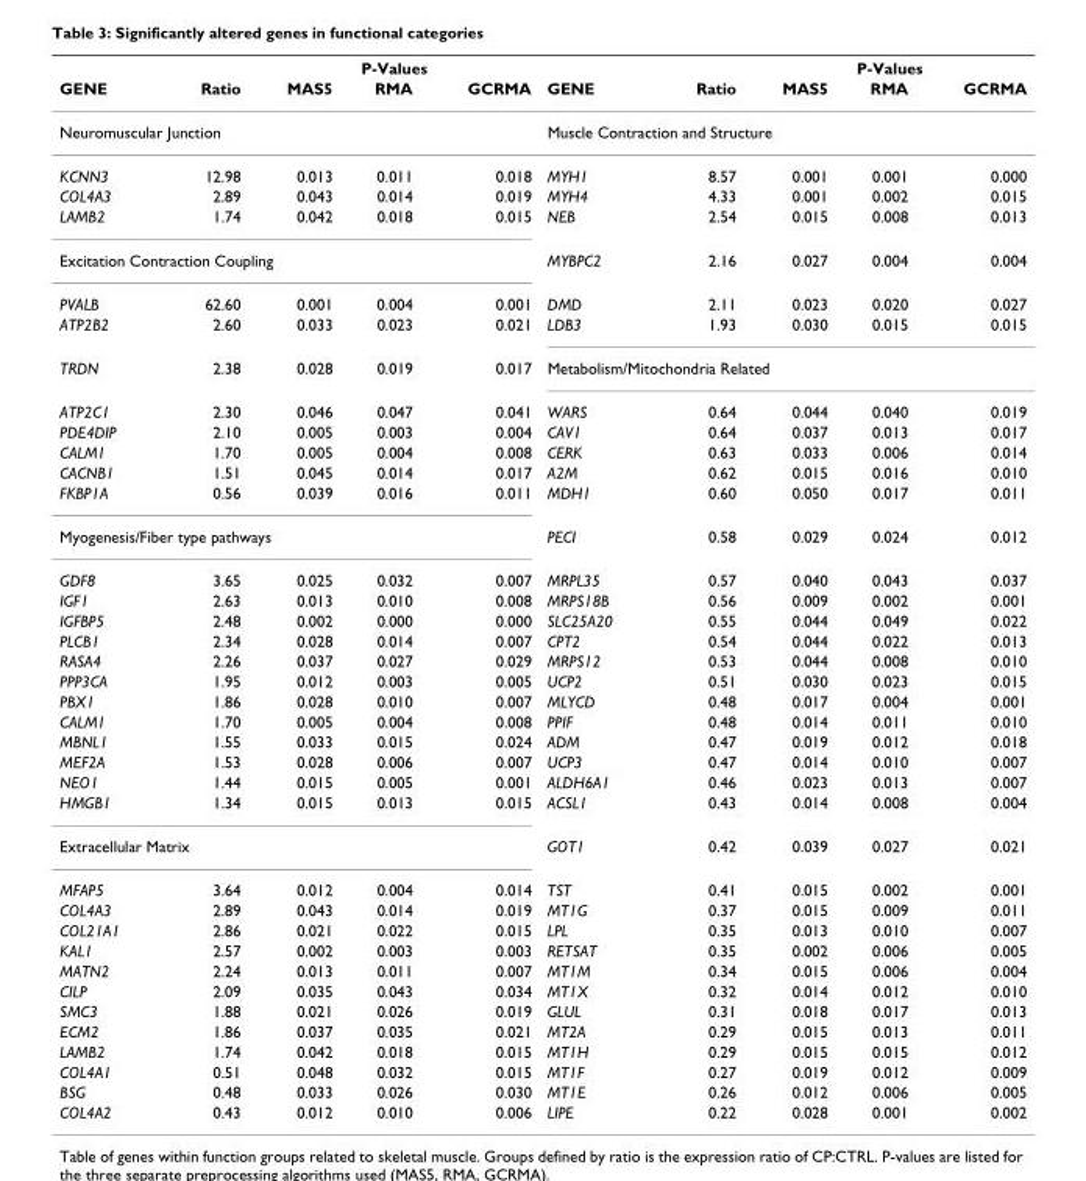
<table><thead><tr><td rowspan="2">GENE</td><td rowspan="2">Ratio</td><td colspan="3">P-Values</td><td rowspan="2">GENE</td><td rowspan="2">Ratio</td><td colspan="3">P-Values</td></tr><tr><td>MAS5</td><td>RMA</td><td>GCRMA</td><td>MAS5</td><td>RMA</td><td>GCRMA</td></tr></thead><tbody><tr><td colspan="5">Neuromuscular Junction</td><td colspan="5">Muscle Contraction and Structure</td></tr><tr><td>KCNN3</td><td>12.98</td><td>0.013</td><td>0.011</td><td>0.018</td><td>MYH1</td><td>8.57</td><td>0.001</td><td>0.001</td><td>0.000</td></tr><tr><td>COL4A3</td><td>2.89</td><td>0.043</td><td>0.014</td><td>0.019</td><td>MYH4</td><td>4.33</td><td>0.001</td><td>0.002</td><td>0.015</td></tr><tr><td>LAMB2</td><td>1.74</td><td>0.042</td><td>0.018</td><td>0.015</td><td>NEB</td><td>2.54</td><td>0.015</td><td>0.008</td><td>0.013</td></tr><tr><td colspan="5">Excitation Contraction Coupling</td><td>MYBPC2</td><td>2.16</td><td>0.027</td><td>0.004</td><td>0.004</td></tr><tr><td>PVALB</td><td>62.60</td><td>0.001</td><td>0.004</td><td>0.001</td><td>DMD</td><td>2.11</td><td>0.023</td><td>0.020</td><td>0.027</td></tr><tr><td>ATP2B2</td><td>2.60</td><td>0.033</td><td>0.023</td><td>0.021</td><td>LDB3</td><td>1.93</td><td>0.030</td><td>0.015</td><td>0.015</td></tr><tr><td>TRDN</td><td>2.38</td><td>0.028</td><td>0.019</td><td>0.017</td><td colspan="5">Metabolism/Mitochondria Related</td></tr><tr><td>ATP2C1</td><td>2.30</td><td>0.046</td><td>0.047</td><td>0.041</td><td>WARS</td><td>0.64</td><td>0.044</td><td>0.040</td><td>0.019</td></tr><tr><td>PDE4DIP</td><td>2.10</td><td>0.005</td><td>0.003</td><td>0.004</td><td>CAV1</td><td>0.64</td><td>0.037</td><td>0.013</td><td>0.017</td></tr><tr><td>CALM1</td><td>1.70</td><td>0.005</td><td>0.004</td><td>0.008</td><td>CERK</td><td>0.63</td><td>0.033</td><td>0.006</td><td>0.014</td></tr><tr><td>CACNB1</td><td>1.51</td><td>0.045</td><td>0.014</td><td>0.017</td><td>A2M</td><td>0.62</td><td>0.015</td><td>0.016</td><td>0.010</td></tr><tr><td>FKBP1A</td><td>0.56</td><td>0.039</td><td>0.016</td><td>0.011</td><td>MDH1</td><td>0.60</td><td>0.050</td><td>0.017</td><td>0.011</td></tr><tr><td colspan="5">Myogenesis/Fiber type pathways</td><td>PECI</td><td>0.58</td><td>0.029</td><td>0.024</td><td>0.012</td></tr><tr><td>GDF8</td><td>3.65</td><td>0.025</td><td>0.032</td><td>0.007</td><td>MRPL35</td><td>0.57</td><td>0.040</td><td>0.043</td><td>0.037</td></tr><tr><td>IGF1</td><td>2.63</td><td>0.013</td><td>0.010</td><td>0.008</td><td>MRPS18B</td><td>0.56</td><td>0.009</td><td>0.002</td><td>0.001</td></tr><tr><td>IGFBP5</td><td>2.48</td><td>0.002</td><td>0.000</td><td>0.000</td><td>SLC25A20</td><td>0.55</td><td>0.044</td><td>0.049</td><td>0.022</td></tr><tr><td>PLCB1</td><td>2.34</td><td>0.028</td><td>0.014</td><td>0.007</td><td>CPT2</td><td>0.54</td><td>0.044</td><td>0.022</td><td>0.013</td></tr><tr><td>RASA4</td><td>2.26</td><td>0.037</td><td>0.027</td><td>0.029</td><td>MRPS12</td><td>0.53</td><td>0.044</td><td>0.008</td><td>0.010</td></tr><tr><td>PPP3CA</td><td>1.95</td><td>0.012</td><td>0.003</td><td>0.005</td><td>UCP2</td><td>0.51</td><td>0.030</td><td>0.023</td><td>0.015</td></tr><tr><td>PBX1</td><td>1.86</td><td>0.028</td><td>0.010</td><td>0.007</td><td>MLYCD</td><td>0.48</td><td>0.017</td><td>0.004</td><td>0.001</td></tr><tr><td>CALM1</td><td>1.70</td><td>0.005</td><td>0.004</td><td>0.008</td><td>PPIF</td><td>0.48</td><td>0.014</td><td>0.011</td><td>0.010</td></tr><tr><td>MBNL1</td><td>1.55</td><td>0.033</td><td>0.015</td><td>0.024</td><td>ADM</td><td>0.47</td><td>0.019</td><td>0.012</td><td>0.018</td></tr><tr><td>MEF2A</td><td>1.53</td><td>0.028</td><td>0.006</td><td>0.007</td><td>UCP3</td><td>0.47</td><td>0.014</td><td>0.010</td><td>0.007</td></tr><tr><td>NEO1</td><td>1.44</td><td>0.015</td><td>0.005</td><td>0.001</td><td>ALDH6A1</td><td>0.46</td><td>0.023</td><td>0.013</td><td>0.007</td></tr><tr><td>HMGB1</td><td>1.34</td><td>0.015</td><td>0.013</td><td>0.015</td><td>ACSL1</td><td>0.43</td><td>0.014</td><td>0.008</td><td>0.004</td></tr><tr><td colspan="5">Extracellular Matrix</td><td>GOT1</td><td>0.42</td><td>0.039</td><td>0.027</td><td>0.021</td></tr><tr><td>MFAP5</td><td>3.64</td><td>0.012</td><td>0.004</td><td>0.014</td><td>TST</td><td>0.41</td><td>0.015</td><td>0.002</td><td>0.001</td></tr><tr><td>COL4A3</td><td>2.89</td><td>0.043</td><td>0.014</td><td>0.019</td><td>MT1G</td><td>0.37</td><td>0.015</td><td>0.009</td><td>0.011</td></tr><tr><td>COL21A1</td><td>2.86</td><td>0.021</td><td>0.022</td><td>0.015</td><td>LPL</td><td>0.35</td><td>0.013</td><td>0.010</td><td>0.007</td></tr><tr><td>KAL1</td><td>2.57</td><td>0.002</td><td>0.003</td><td>0.003</td><td>RETSAT</td><td>0.35</td><td>0.002</td><td>0.006</td><td>0.005</td></tr><tr><td>MATN2</td><td>2.24</td><td>0.013</td><td>0.011</td><td>0.007</td><td>MT1M</td><td>0.34</td><td>0.015</td><td>0.006</td><td>0.004</td></tr><tr><td>CILP</td><td>2.09</td><td>0.035</td><td>0.043</td><td>0.034</td><td>MT1X</td><td>0.32</td><td>0.014</td><td>0.012</td><td>0.010</td></tr><tr><td>SMC3</td><td>1.88</td><td>0.021</td><td>0.026</td><td>0.019</td><td>GLUL</td><td>0.31</td><td>0.018</td><td>0.017</td><td>0.013</td></tr><tr><td>ECM2</td><td>1.86</td><td>0.037</td><td>0.035</td><td>0.021</td><td>MT2A</td><td>0.29</td><td>0.015</td><td>0.013</td><td>0.011</td></tr><tr><td>LAMB2</td><td>1.74</td><td>0.042</td><td>0.018</td><td>0.015</td><td>MT1H</td><td>0.29</td><td>0.015</td><td>0.015</td><td>0.012</td></tr><tr><td>COL4A1</td><td>0.51</td><td>0.048</td><td>0.032</td><td>0.015</td><td>MT1F</td><td>0.27</td><td>0.019</td><td>0.012</td><td>0.009</td></tr><tr><td>BSG</td><td>0.48</td><td>0.033</td><td>0.026</td><td>0.030</td><td>MT1E</td><td>0.26</td><td>0.012</td><td>0.006</td><td>0.005</td></tr><tr><td>COL4A2</td><td>0.43</td><td>0.012</td><td>0.010</td><td>0.006</td><td>LIPE</td><td>0.22</td><td>0.028</td><td>0.001</td><td>0.002</td></tr></tbody></table>